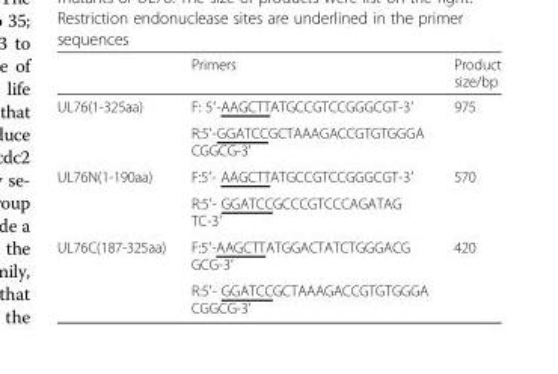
<table><thead><tr><td></td><td>Primers</td><td>Product size/bp</td></tr></thead><tbody><tr><td rowspan="2">UL76(1-325aa)</td><td>F: 5′-AAGCTTATGCCGTCCGGGCGT-3′</td><td rowspan="2">975</td></tr><tr><td>R:5′-GGATCCGCTAAAGACCGTGTGGGA CGGCG-3′</td></tr><tr><td rowspan="2">UL76N(1-190aa)</td><td>F:5′- AAGCTTATGCCGTCCGGGCGT-3′</td><td rowspan="2">570</td></tr><tr><td>R:5′- GGATCCGCCCGTCCCAGATAG TC-3′</td></tr><tr><td rowspan="2">UL76C(187-325aa)</td><td>F:5′-AAGCTTATGGACTATCTGGGACG GCG-3′</td><td rowspan="2">420</td></tr><tr><td>R:5′- GGATCCGCTAAAGACCGTGTGGGA CGGCG-3′</td></tr></tbody></table>